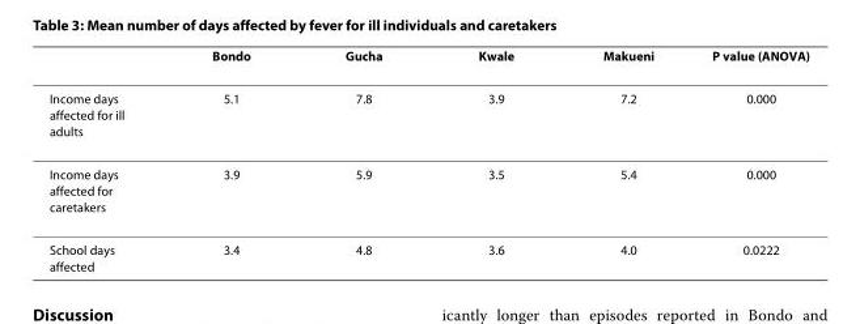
<table><thead><tr><td></td><td>Bondo</td><td>Gucha</td><td>Kwale</td><td>Makueni</td><td>P value (ANOVA)</td></tr></thead><tbody><tr><td>Income days affected for ill adults</td><td>5.1</td><td>7.8</td><td>3.9</td><td>7.2</td><td>0.000</td></tr><tr><td>Income days affected for caretakers</td><td>3.9</td><td>5.9</td><td>3.5</td><td>5.4</td><td>0.000</td></tr><tr><td>School days affected</td><td>3.4</td><td>4.8</td><td>3.6</td><td>4.0</td><td>0.0222</td></tr></tbody></table>